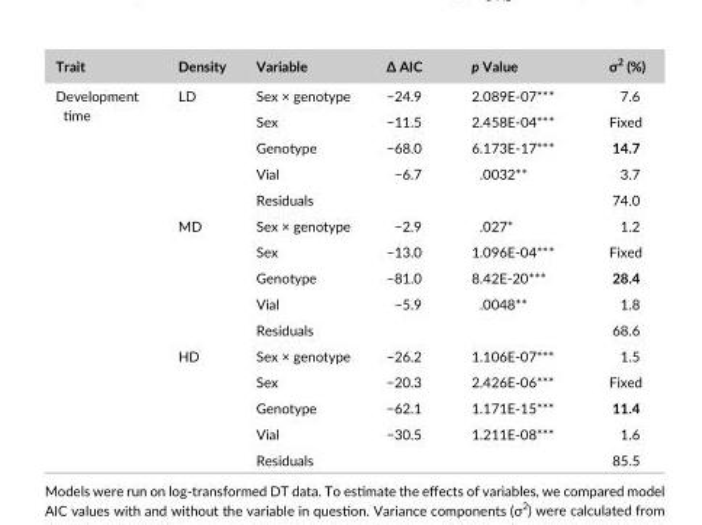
<table><thead><tr><td>Trait</td><td>Density</td><td>Variable</td><td>Δ AIC</td><td>p Value</td><td>σ<sup>2</sup> (%)</td></tr></thead><tbody><tr><td rowspan="15">Development time</td><td rowspan="5">LD</td><td>Sex × genotype</td><td>−24.9</td><td>2.089E- 07***</td><td>7.6</td></tr><tr><td>Sex</td><td>−11.5</td><td>2.458E- 04***</td><td>Fixed</td></tr><tr><td>Genotype</td><td>−68.0</td><td>6.173E- 17***</td><td>14.7</td></tr><tr><td>Vial</td><td>−6.7</td><td>.0032**</td><td>3.7</td></tr><tr><td>Residuals</td><td></td><td></td><td>74.0</td></tr><tr><td rowspan="5">MD</td><td>Sex × genotype</td><td>−2.9</td><td>.027*</td><td>1.2</td></tr><tr><td>Sex</td><td>−13.0</td><td>1.096E- 04***</td><td>Fixed</td></tr><tr><td>Genotype</td><td>−81.0</td><td>8.42E- 20***</td><td>28.4</td></tr><tr><td>Vial</td><td>−5.9</td><td>.0048**</td><td>1.8</td></tr><tr><td>Residuals</td><td></td><td></td><td>68.6</td></tr><tr><td rowspan="5">HD</td><td>Sex × genotype</td><td>−26.2</td><td>1.106E-07***</td><td>1.5</td></tr><tr><td>Sex</td><td>−20.3</td><td>2.426E-06***</td><td>Fixed</td></tr><tr><td>Genotype</td><td>−62.1</td><td>1.171E-15***</td><td>11.4</td></tr><tr><td>Vial</td><td>−30.5</td><td>1.211E-08***</td><td>1.6</td></tr><tr><td>Residuals</td><td></td><td></td><td>85.5</td></tr></tbody></table>